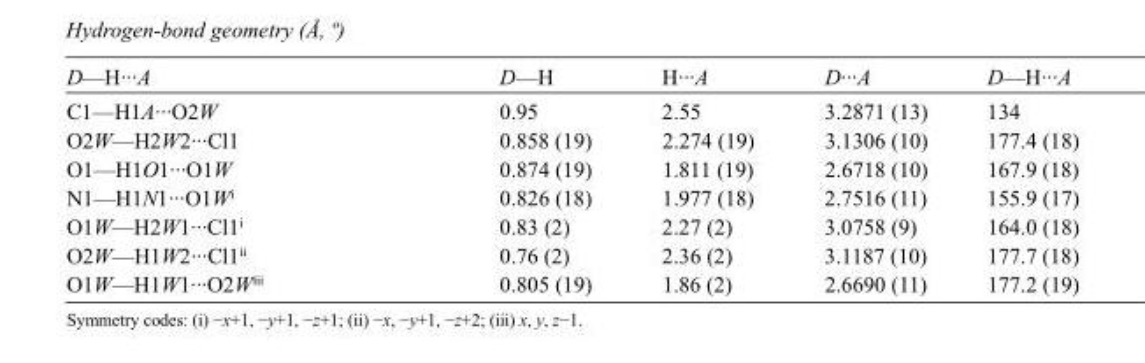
<table><tbody><tr><td>D—H···A</td><td>D—H</td><td>H···A</td><td>D···A</td><td>D—H···A</td></tr><tr><td>C1—H1A···O2W</td><td>0.95</td><td>2.55</td><td>3.2871 (13)</td><td>134</td></tr><tr><td>O2W—H2W2···Cl1</td><td>0.858 (19)</td><td>2.274 (19)</td><td>3.1306 (10)</td><td>177.4 (18)</td></tr><tr><td>O1—H1O1···O1W</td><td>0.874 (19)</td><td>1.811 (19)</td><td>2.6718 (10)</td><td>167.9 (18)</td></tr><tr><td>N1—H1N1···O1W<sup>i</sup></td><td>0.826 (18)</td><td>1.977 (18)</td><td>2.7516 (11)</td><td>155.9 (17)</td></tr><tr><td>O1W—H2W1···Cl1<sup>i</sup></td><td>0.83 (2)</td><td>2.27 (2)</td><td>3.0758 (9)</td><td>164.0 (18)</td></tr><tr><td>O2W—H1W2···Cl1<sup>ii</sup></td><td>0.76 (2)</td><td>2.36 (2)</td><td>3.1187 (10)</td><td>177.7 (18)</td></tr><tr><td>O1W—H1W1···O2W<sup>iii</sup></td><td>0.805 (19)</td><td>1.86 (2)</td><td>2.6690 (11)</td><td>177.2 (19)</td></tr></tbody></table>